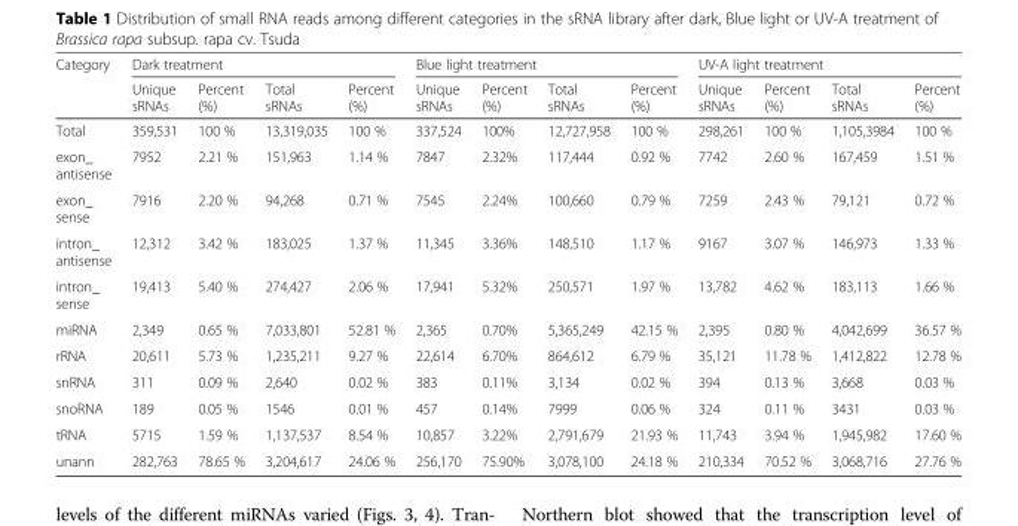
<table><thead><tr><td rowspan="2">Category</td><td colspan="4">Dark treatment</td><td colspan="4">Blue light treatment</td><td colspan="4">UV-A light treatment</td></tr><tr><td>Unique sRNAs</td><td>Percent (%)</td><td>Total sRNAs</td><td>Percent (%)</td><td>Unique sRNAs</td><td>Percent (%)</td><td>Total sRNAs</td><td>Percent (%)</td><td>Unique sRNAs</td><td>Percent (%)</td><td>Total sRNAs</td><td>Percent (%)</td></tr></thead><tbody><tr><td>Total</td><td>359,531</td><td>100 %</td><td>13,319,035</td><td>100 %</td><td>337,524</td><td>100%</td><td>12,727,958</td><td>100 %</td><td>298,261</td><td>100 %</td><td>1,105,3984</td><td>100 %</td></tr><tr><td>exon_ antisense</td><td>7952</td><td>2.21 %</td><td>151,963</td><td>1.14 %</td><td>7847</td><td>2.32%</td><td>117,444</td><td>0.92 %</td><td>7742</td><td>2.60 %</td><td>167,459</td><td>1.51 %</td></tr><tr><td>exon_ sense</td><td>7916</td><td>2.20 %</td><td>94,268</td><td>0.71 %</td><td>7545</td><td>2.24%</td><td>100,660</td><td>0.79 %</td><td>7259</td><td>2.43 %</td><td>79,121</td><td>0.72 %</td></tr><tr><td>intron_ antisense</td><td>12,312</td><td>3.42 %</td><td>183,025</td><td>1.37 %</td><td>11,345</td><td>3.36%</td><td>148,510</td><td>1.17 %</td><td>9167</td><td>3.07 %</td><td>146,973</td><td>1.33 %</td></tr><tr><td>intron_ sense</td><td>19,413</td><td>5.40 %</td><td>274,427</td><td>2.06 %</td><td>17,941</td><td>5.32%</td><td>250,571</td><td>1.97 %</td><td>13,782</td><td>4.62 %</td><td>183,113</td><td>1.66 %</td></tr><tr><td>miRNA</td><td>2,349</td><td>0.65 %</td><td>7,033,801</td><td>52.81 %</td><td>2,365</td><td>0.70%</td><td>5,365,249</td><td>42.15 %</td><td>2,395</td><td>0.80 %</td><td>4,042,699</td><td>36.57 %</td></tr><tr><td>rRNA</td><td>20,611</td><td>5.73 %</td><td>1,235,211</td><td>9.27 %</td><td>22,614</td><td>6.70%</td><td>864,612</td><td>6.79 %</td><td>35,121</td><td>11.78 %</td><td>1,412,822</td><td>12.78 %</td></tr><tr><td>snRNA</td><td>311</td><td>0.09 %</td><td>2,640</td><td>0.02 %</td><td>383</td><td>0.11%</td><td>3,134</td><td>0.02 %</td><td>394</td><td>0.13 %</td><td>3,668</td><td>0.03 %</td></tr><tr><td>snoRNA</td><td>189</td><td>0.05 %</td><td>1546</td><td>0.01 %</td><td>457</td><td>0.14%</td><td>7999</td><td>0.06 %</td><td>324</td><td>0.11 %</td><td>3431</td><td>0.03 %</td></tr><tr><td>tRNA</td><td>5715</td><td>1.59 %</td><td>1,137,537</td><td>8.54 %</td><td>10,857</td><td>3.22%</td><td>2,791,679</td><td>21.93 %</td><td>11,743</td><td>3.94 %</td><td>1,945,982</td><td>17.60 %</td></tr><tr><td>unann</td><td>282,763</td><td>78.65 %</td><td>3,204,617</td><td>24.06 %</td><td>256,170</td><td>75.90%</td><td>3,078,100</td><td>24.18 %</td><td>210,334</td><td>70.52 %</td><td>3,068,716</td><td>27.76 %</td></tr></tbody></table>